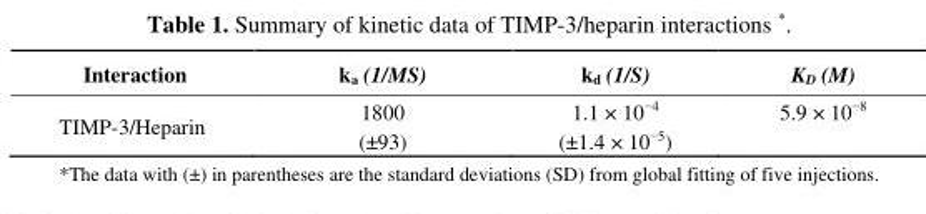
<table><thead><tr><td>Interaction</td><td>k<sub>a</sub> (1/MS)</td><td>k<sub>d</sub> (1/S)</td><td>K<sub>D</sub> (M)</td></tr></thead><tbody><tr><td>TIMP-3/Heparin</td><td>1800 (±93)</td><td>1.1 × 10<sup>−4</sup> (±1.4 × 10<sup>−5</sup>)</td><td>5.9 × 10<sup>−8</sup></td></tr></tbody></table>